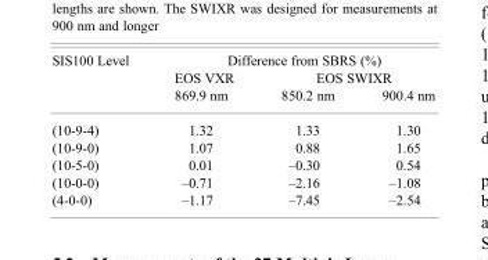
<table><thead><tr><td rowspan="3">SIS100 Level</td><td colspan="3">Difference from SBRS (%)</td></tr><tr><td rowspan="2">EOS VXR 869.9 nm</td><td colspan="2">EOS SWIXR</td></tr><tr><td>850.2 nm</td><td>900.4 nm</td></tr></thead><tbody><tr><td>(10-9-4)</td><td>1.32</td><td>1.33</td><td>1.30</td></tr><tr><td>(10-9-0)</td><td>1.07</td><td>0.88</td><td>1.65</td></tr><tr><td>(10-5-0)</td><td>0.01</td><td>–0.30</td><td>0.54</td></tr><tr><td>(10-0-0)</td><td>–0.71</td><td>–2.16</td><td>–1.08</td></tr><tr><td>(4-0-0)</td><td>–1.17</td><td>–7.45</td><td>–2.54</td></tr></tbody></table>